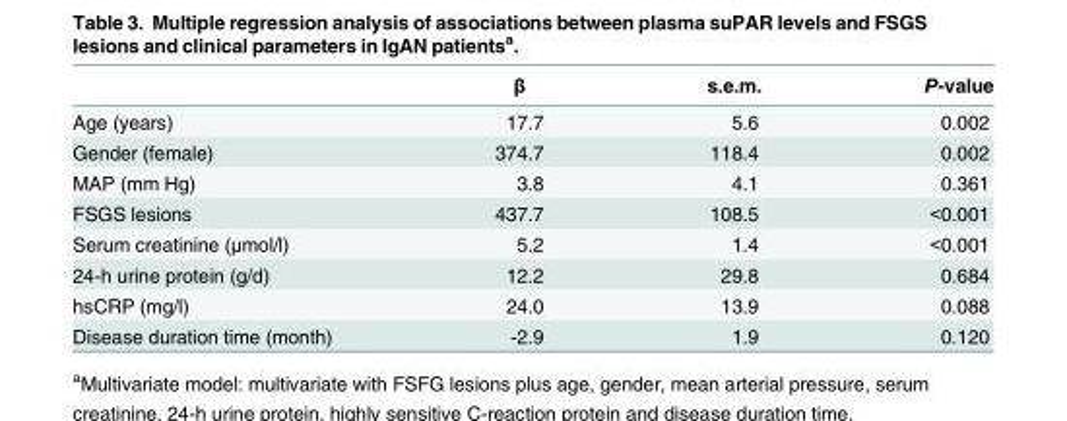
<table><thead><tr><td></td><td>β</td><td>s.e.m.</td><td>P-value</td></tr></thead><tbody><tr><td>Age (years)</td><td>17.7</td><td>5.6</td><td>0.002</td></tr><tr><td>Gender (female)</td><td>374.7</td><td>118.4</td><td>0.002</td></tr><tr><td>MAP (mm Hg)</td><td>3.8</td><td>4.1</td><td>0.361</td></tr><tr><td>FSGS lesions</td><td>437.7</td><td>108.5</td><td>&lt;0.001</td></tr><tr><td>Serum creatinine (μmol/l)</td><td>5.2</td><td>1.4</td><td>&lt;0.001</td></tr><tr><td>24-h urine protein (g/d)</td><td>12.2</td><td>29.8</td><td>0.684</td></tr><tr><td>hsCRP (mg/l)</td><td>24.0</td><td>13.9</td><td>0.088</td></tr><tr><td>Disease duration time (month)</td><td>-2.9</td><td>1.9</td><td>0.120</td></tr></tbody></table>